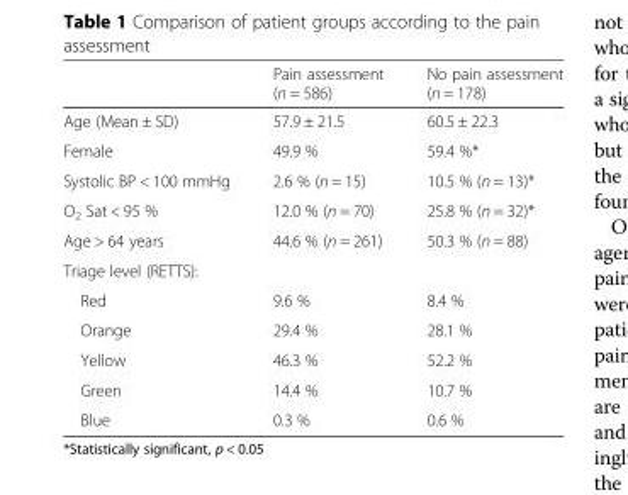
<table><thead><tr><td></td><td>Pain assessment (n = 586)</td><td>No pain assessment (n = 178)</td></tr></thead><tbody><tr><td>Age (Mean ± SD)</td><td>57.9 ± 21.5</td><td>60.5 ± 22.3</td></tr><tr><td>Female</td><td>49.9 %</td><td>59.4 %*</td></tr><tr><td>Systolic BP &lt; 100 mmHg</td><td>2.6 % (n = 15)</td><td>10.5 % (n = 13)*</td></tr><tr><td>O<sub>2</sub> Sat &lt; 95 %</td><td>12.0 % (n = 70)</td><td>25.8 % (n = 32)*</td></tr><tr><td>Age &gt; 64 years</td><td>44.6 % (n = 261)</td><td>50.3 % (n = 88)</td></tr><tr><td colspan="3">Triage level (RETTS):</td></tr><tr><td>Red</td><td>9.6 %</td><td>8.4 %</td></tr><tr><td>Orange</td><td>29.4 %</td><td>28.1 %</td></tr><tr><td>Yellow</td><td>46.3 %</td><td>52.2 %</td></tr><tr><td>Green</td><td>14.4 %</td><td>10.7 %</td></tr><tr><td>Blue</td><td>0.3 %</td><td>0.6 %</td></tr></tbody></table>